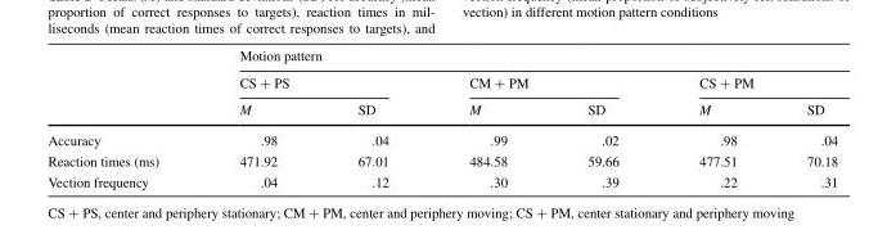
<table><thead><tr><td rowspan="3"></td><td colspan="6">Motion pattern</td></tr><tr><td colspan="2">CS + PS</td><td colspan="2">CM + PM</td><td colspan="2">CS + PM</td></tr><tr><td>M</td><td>SD</td><td>M</td><td>SD</td><td>M</td><td>SD</td></tr></thead><tbody><tr><td>Accuracy</td><td>.98</td><td>.04</td><td>.99</td><td>.02</td><td>.98</td><td>.04</td></tr><tr><td>Reaction times (ms)</td><td>471.92</td><td>67.01</td><td>484.58</td><td>59.66</td><td>477.51</td><td>70.18</td></tr><tr><td>Vection frequency</td><td>.04</td><td>.12</td><td>.30</td><td>.39</td><td>.22</td><td>.31</td></tr></tbody></table>